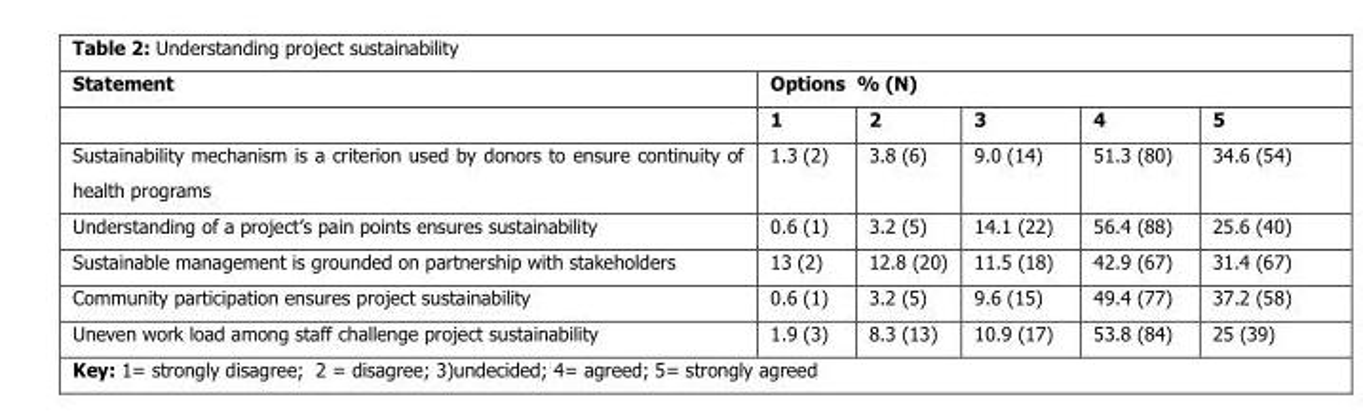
<table><thead><tr><td rowspan="2">Statement</td><td colspan="5">Options % (N)</td></tr><tr><td>1</td><td>2</td><td>3</td><td>4</td><td>5</td></tr></thead><tbody><tr><td>Sustainability mechanism is a criterion used by donors to ensure continuity of health programs</td><td>1.3 (2)</td><td>3.8 (6)</td><td>9.0 (14)</td><td>51.3 (80)</td><td>34.6 (54)</td></tr><tr><td>Understanding of a project’s pain points ensures sustainability</td><td>0.6 (1)</td><td>3.2 (5)</td><td>14.1 (22)</td><td>56.4 (88)</td><td>25.6 (40)</td></tr><tr><td>Sustainable management is grounded on partnership with stakeholders</td><td>13 (2)</td><td>12.8 (20)</td><td>11.5 (18)</td><td>42.9 (67)</td><td>31.4 (67)</td></tr><tr><td>Community participation ensures project sustainability</td><td>0.6 (1)</td><td>3.2 (5)</td><td>9.6 (15)</td><td>49.4 (77)</td><td>37.2 (58)</td></tr><tr><td>Uneven work load among staff challenge project sustainability</td><td>1.9 (3)</td><td>8.3 (13)</td><td>10.9 (17)</td><td>53.8 (84)</td><td>25 (39)</td></tr></tbody></table>